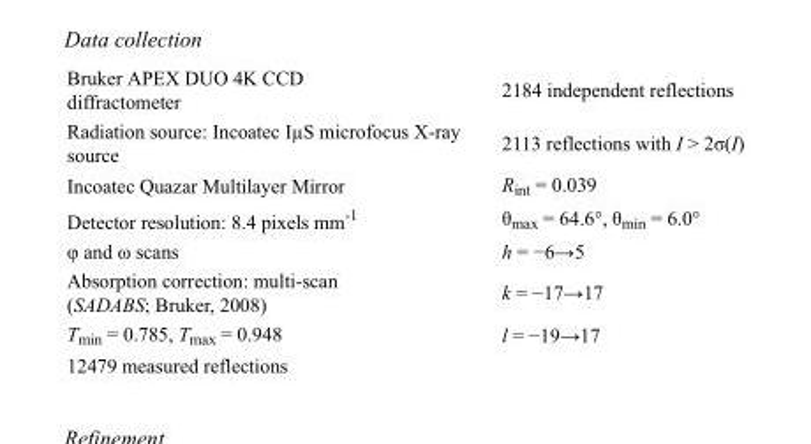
<table><tbody><tr><td>Bruker APEX DUO 4K CCD diffractometer</td><td>2184 independent reflections</td></tr><tr><td>Radiation source: Incoatec IµS microfocus X-ray source</td><td>2113 reflections with I &gt; 2σ(I)</td></tr><tr><td>Incoatec Quazar Multilayer Mirror</td><td>R<sub>int</sub> = 0.039</td></tr><tr><td>Detector resolution: 8.4 pixels mm<sup>-1</sup></td><td>θ<sub>max</sub> = 64.6°, θ<sub>min</sub> = 6.0°</td></tr><tr><td>φ and ω scans</td><td>h = −6→5</td></tr><tr><td>Absorption correction: multi-scan (SADABS; Bruker, 2008)</td><td>k = −17→17</td></tr><tr><td>T<sub>min</sub> = 0.785, T<sub>max</sub> = 0.948</td><td>l = −19→17</td></tr><tr><td>12479 measured reflections</td><td></td></tr></tbody></table>